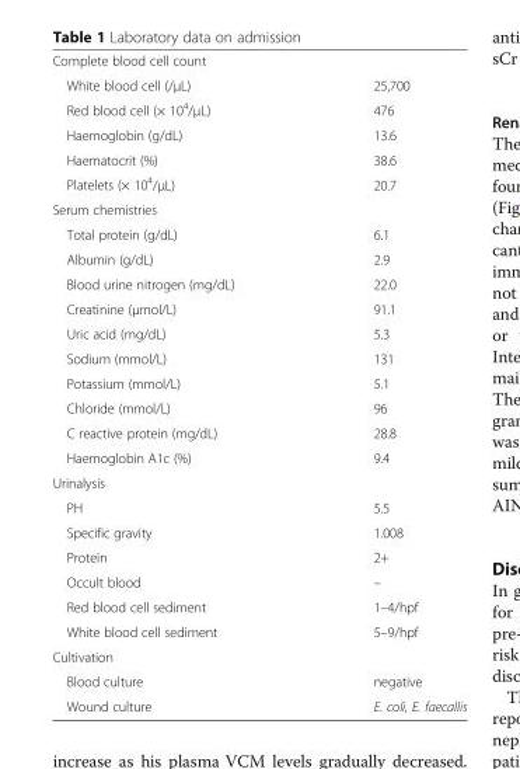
<table><tbody><tr><td colspan="2">Complete blood cell count</td></tr><tr><td>White blood cell (/μL)</td><td>25,700</td></tr><tr><td>Red blood cell (× 10<sup>4</sup>/μL)</td><td>476</td></tr><tr><td>Haemoglobin (g/dL)</td><td>13.6</td></tr><tr><td>Haematocrit (%)</td><td>38.6</td></tr><tr><td>Platelets (× 10<sup>4</sup>/μL)</td><td>20.7</td></tr><tr><td colspan="2">Serum chemistries</td></tr><tr><td>Total protein (g/dL)</td><td>6.1</td></tr><tr><td>Albumin (g/dL)</td><td>2.9</td></tr><tr><td>Blood urine nitrogen (mg/dL)</td><td>22.0</td></tr><tr><td>Creatinine (μmol/L)</td><td>91.1</td></tr><tr><td>Uric acid (mg/dL)</td><td>5.3</td></tr><tr><td>Sodium (mmol/L)</td><td>131</td></tr><tr><td>Potassium (mmol/L)</td><td>5.1</td></tr><tr><td>Chloride (mmol/L)</td><td>96</td></tr><tr><td>C reactive protein (mg/dL)</td><td>28.8</td></tr><tr><td>Haemoglobin A1c (%)</td><td>9.4</td></tr><tr><td colspan="2">Urinalysis</td></tr><tr><td>PH</td><td>5.5</td></tr><tr><td>Specific gravity</td><td>1.008</td></tr><tr><td>Protein</td><td>2+</td></tr><tr><td>Occult blood</td><td>–</td></tr><tr><td>Red blood cell sediment</td><td>1–4/hpf</td></tr><tr><td>White blood cell sediment</td><td>5–9/hpf</td></tr><tr><td colspan="2">Cultivation</td></tr><tr><td>Blood culture</td><td>negative</td></tr><tr><td>Wound culture</td><td>E. coli, E. faecallis</td></tr></tbody></table>